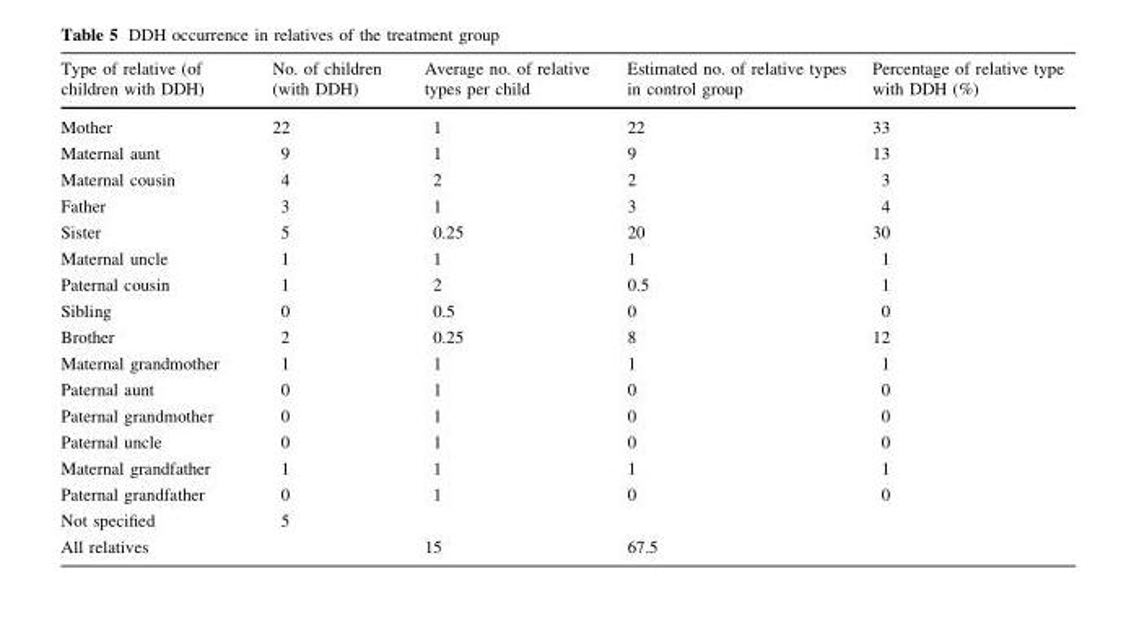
<table><thead><tr><td>Type of relative (of children with DDH)</td><td>No. of children (with DDH)</td><td>Average no. of relative types per child</td><td>Estimated no. of relative types in control group</td><td>Percentage of relative type with DDH (%)</td></tr></thead><tbody><tr><td>Mother</td><td>22</td><td>1</td><td>22</td><td>33</td></tr><tr><td>Maternal aunt</td><td>9</td><td>1</td><td>9</td><td>13</td></tr><tr><td>Maternal cousin</td><td>4</td><td>2</td><td>2</td><td>3</td></tr><tr><td>Father</td><td>3</td><td>1</td><td>3</td><td>4</td></tr><tr><td>Sister</td><td>5</td><td>0.25</td><td>20</td><td>30</td></tr><tr><td>Maternal uncle</td><td>1</td><td>1</td><td>1</td><td>1</td></tr><tr><td>Paternal cousin</td><td>1</td><td>2</td><td>0.5</td><td>1</td></tr><tr><td>Sibling</td><td>0</td><td>0.5</td><td>0</td><td>0</td></tr><tr><td>Brother</td><td>2</td><td>0.25</td><td>8</td><td>12</td></tr><tr><td>Maternal grandmother</td><td>1</td><td>1</td><td>1</td><td>1</td></tr><tr><td>Paternal aunt</td><td>0</td><td>1</td><td>0</td><td>0</td></tr><tr><td>Paternal grandmother</td><td>0</td><td>1</td><td>0</td><td>0</td></tr><tr><td>Paternal uncle</td><td>0</td><td>1</td><td>0</td><td>0</td></tr><tr><td>Maternal grandfather</td><td>1</td><td>1</td><td>1</td><td>1</td></tr><tr><td>Paternal grandfather</td><td>0</td><td>1</td><td>0</td><td>0</td></tr><tr><td>Not specified</td><td>5</td><td></td><td></td><td></td></tr><tr><td>All relatives</td><td></td><td>15</td><td>67.5</td><td></td></tr></tbody></table>